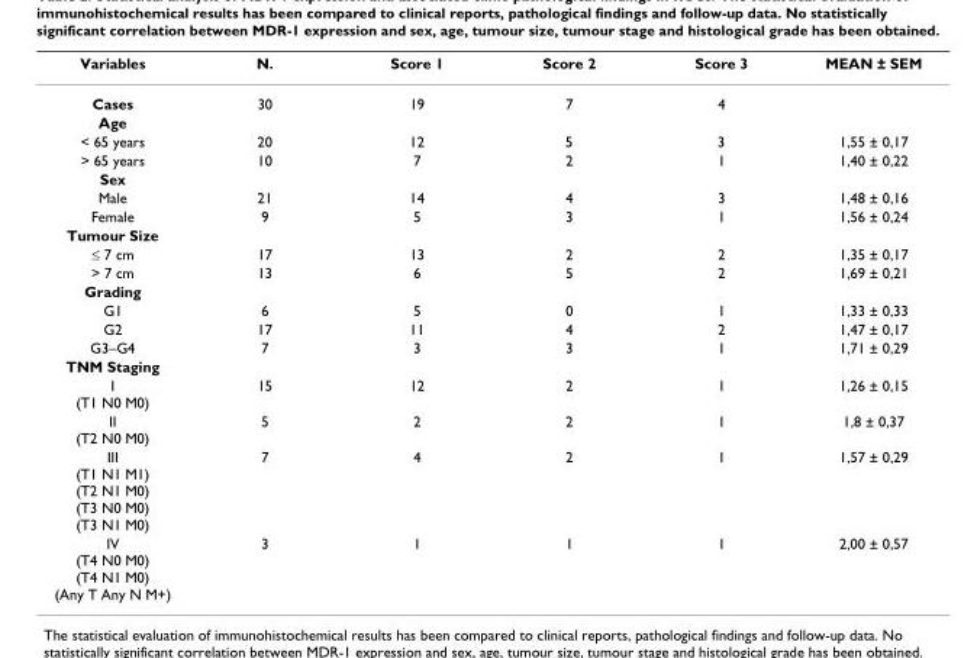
<table><thead><tr><td>Variables</td><td>N.</td><td>Score 1</td><td>Score 2</td><td>Score 3</td><td>MEAN ± SEM</td></tr></thead><tbody><tr><td>Cases</td><td>30</td><td>19</td><td>7</td><td>4</td><td></td></tr><tr><td colspan="6">Age</td></tr><tr><td>&lt; 65 years</td><td>20</td><td>12</td><td>5</td><td>3</td><td>1,55 ± 0,17</td></tr><tr><td>&gt; 65 years</td><td>10</td><td>7</td><td>2</td><td>1</td><td>1,40 ± 0,22</td></tr><tr><td colspan="6">Sex</td></tr><tr><td>Male</td><td>21</td><td>14</td><td>4</td><td>3</td><td>1,48 ± 0,16</td></tr><tr><td>Female</td><td>9</td><td>5</td><td>3</td><td>1</td><td>1,56 ± 0,24</td></tr><tr><td colspan="6">Tumour Size</td></tr><tr><td>≤ 7 cm</td><td>17</td><td>13</td><td>2</td><td>2</td><td>1,35 ± 0,17</td></tr><tr><td>&gt; 7 cm</td><td>13</td><td>6</td><td>5</td><td>2</td><td>1,69 ± 0,21</td></tr><tr><td colspan="6">Grading</td></tr><tr><td>G1</td><td>6</td><td>5</td><td>0</td><td>1</td><td>1,33 ± 0,33</td></tr><tr><td>G2</td><td>17</td><td>11</td><td>4</td><td>2</td><td>1,47 ± 0,17</td></tr><tr><td>G3–G4</td><td>7</td><td>3</td><td>3</td><td>1</td><td>1,71 ± 0,29</td></tr><tr><td colspan="6">TNM Staging</td></tr><tr><td>I (T1 N0 M0)</td><td>15</td><td>12</td><td>2</td><td>1</td><td>1,26 ± 0,15</td></tr><tr><td>II (T2 N0 M0)</td><td>5</td><td>2</td><td>2</td><td>1</td><td>1,8 ± 0,37</td></tr><tr><td>III (T1 N1 M1) (T2 N1 M0) (T3 N0 M0) (T3 N1 M0)</td><td>7</td><td>4</td><td>2</td><td>1</td><td>1,57 ± 0,29</td></tr><tr><td>IV (T4 N0 M0) (T4 N1 M0) (Any T Any N M+)</td><td>3</td><td>1</td><td>1</td><td>1</td><td>2,00 ± 0,57</td></tr></tbody></table>